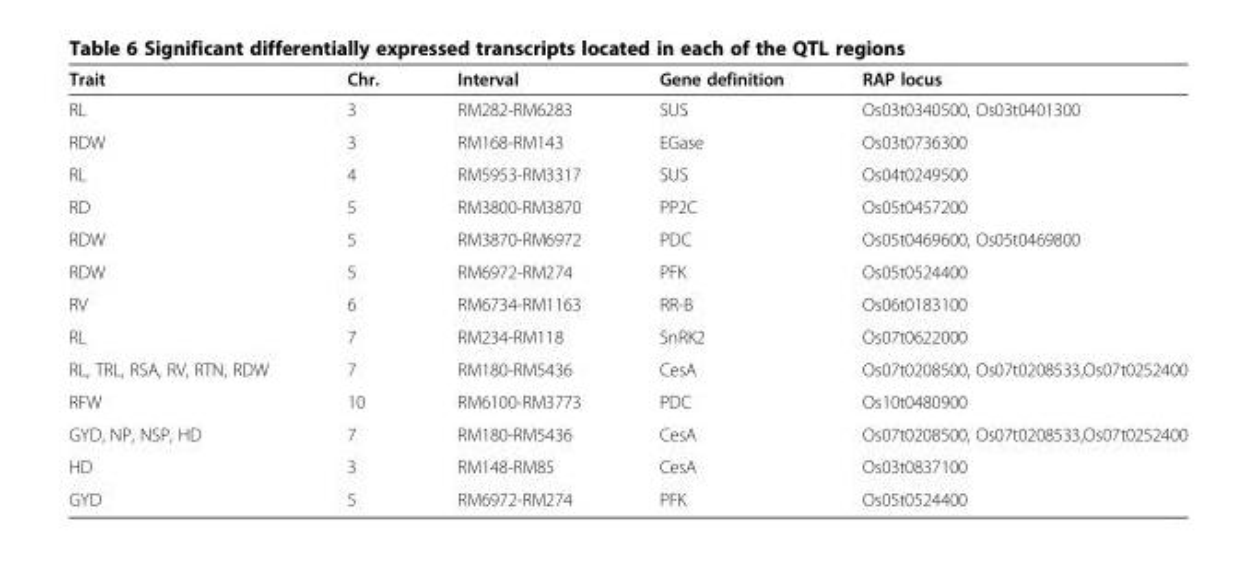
<table><thead><tr><td>Trait</td><td>Chr.</td><td>Interval</td><td>Gene definition</td><td>RAP locus</td></tr></thead><tbody><tr><td>RL</td><td>3</td><td>RM282-RM6283</td><td>SUS</td><td>Os03t0340500, Os03t0401300</td></tr><tr><td>RDW</td><td>3</td><td>RM168-RM143</td><td>EGase</td><td>Os03t0736300</td></tr><tr><td>RL</td><td>4</td><td>RM5953-RM3317</td><td>SUS</td><td>Os04t0249500</td></tr><tr><td>RD</td><td>5</td><td>RM3800-RM3870</td><td>PP2C</td><td>Os05t0457200</td></tr><tr><td>RDW</td><td>5</td><td>RM3870-RM6972</td><td>PDC</td><td>Os05t0469600, Os05t0469800</td></tr><tr><td>RDW</td><td>5</td><td>RM6972-RM274</td><td>PFK</td><td>Os05t0524400</td></tr><tr><td>RV</td><td>6</td><td>RM6734-RM1163</td><td>RR-B</td><td>Os06t0183100</td></tr><tr><td>RL</td><td>7</td><td>RM234-RM118</td><td>SnRK2</td><td>Os07t0622000</td></tr><tr><td>RL, TRL, RSA, RV, RTN, RDW</td><td>7</td><td>RM180-RM5436</td><td>CesA</td><td>Os07t0208500, Os07t0208533,Os07t0252400</td></tr><tr><td>RFW</td><td>10</td><td>RM6100-RM3773</td><td>PDC</td><td>Os10t0480900</td></tr><tr><td>GYD, NP, NSP, HD</td><td>7</td><td>RM180-RM5436</td><td>CesA</td><td>Os07t0208500, Os07t0208533,Os07t0252400</td></tr><tr><td>HD</td><td>3</td><td>RM148-RM85</td><td>CesA</td><td>Os03t0837100</td></tr><tr><td>GYD</td><td>5</td><td>RM6972-RM274</td><td>PFK</td><td>Os05t0524400</td></tr></tbody></table>